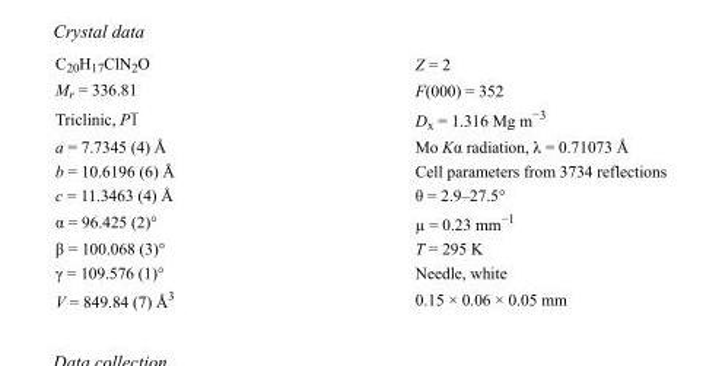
<table><tbody><tr><td>C<sub>20</sub>H<sub>17</sub>ClN<sub>2</sub>O</td><td>Z = 2</td></tr><tr><td>M<sub>r</sub> = 336.81</td><td>F(000) = 352</td></tr><tr><td>Triclinic, P1</td><td>D<sub>x</sub> = 1.316 Mg m<sup>−3</sup></td></tr><tr><td>a = 7.7345 (4) Å</td><td>Mo Kα radiation, λ = 0.71073 Å</td></tr><tr><td>b = 10.6196 (6) Å</td><td>Cell parameters from 3734 reflections</td></tr><tr><td>c = 11.3463 (4) Å</td><td>θ = 2.9–27.5°</td></tr><tr><td>α = 96.425 (2)°</td><td>µ = 0.23 mm<sup>−1</sup></td></tr><tr><td>β = 100.068 (3)°</td><td>T = 295 K</td></tr><tr><td>γ = 109.576 (1)°</td><td>Needle, white</td></tr><tr><td>V = 849.84 (7) Å<sup>3</sup></td><td>0.15 × 0.06 × 0.05 mm</td></tr></tbody></table>